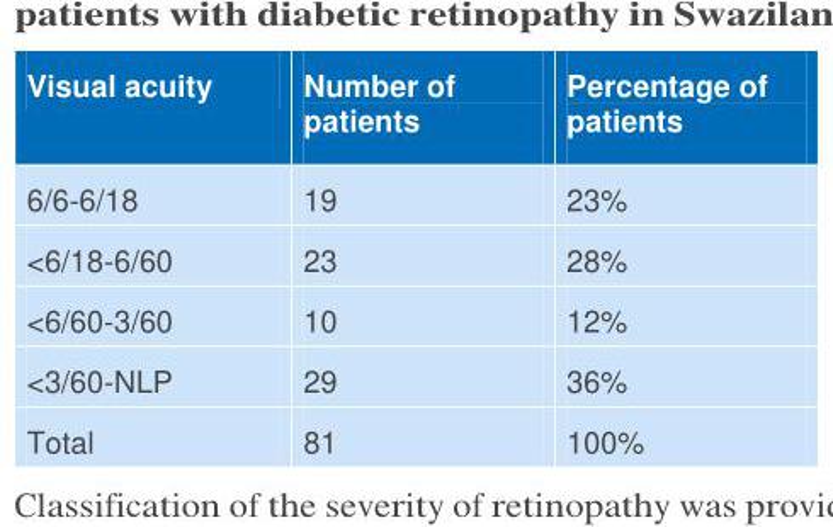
<table><thead><tr><td>Visual acuity</td><td>Number of patients</td><td>Percentage of patients</td></tr></thead><tbody><tr><td>6/6-6/18</td><td>19</td><td>23%</td></tr><tr><td>&lt;6/18-6/60</td><td>23</td><td>28%</td></tr><tr><td>&lt;6/60-3/60</td><td>10</td><td>12%</td></tr><tr><td>&lt;3/60-NLP</td><td>29</td><td>36%</td></tr><tr><td>Total</td><td>81</td><td>100%</td></tr></tbody></table>